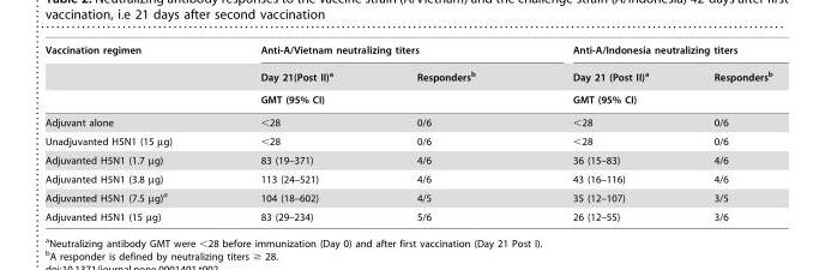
<table><thead><tr><td rowspan="3">Vaccination regimen</td><td colspan="2">Anti-A/Vietnam neutralizing titers</td><td colspan="2">Anti-A/Indonesia neutralizing titers</td></tr><tr><td rowspan="2">Day 21(Post II)<sup>a</sup> GMT (95% CI)</td><td rowspan="2">Responders<sup>b</sup></td><td rowspan="2">Day 21 (Post II)<sup>a</sup> GMT (95% CI)</td><td rowspan="2">Responders<sup>b</sup></td></tr><tr></tr></thead><tbody><tr><td>Adjuvant alone</td><td>&lt;28</td><td>0/6</td><td>&lt;28</td><td>0/6</td></tr><tr><td>Unadjuvanted H5N1 (15 µg)</td><td>&lt;28</td><td>0/6</td><td>&lt;28</td><td>0/6</td></tr><tr><td>Adjuvanted H5N1 (1.7 µg)</td><td>83 (19–371)</td><td>4/6</td><td>36 (15–83)</td><td>4/6</td></tr><tr><td>Adjuvanted H5N1 (3.8 µg)</td><td>113 (24–521)</td><td>4/6</td><td>43 (16–116)</td><td>4/6</td></tr><tr><td>Adjuvanted H5N1 (7.5 µg)<sup>a</sup></td><td>104 (18–602)</td><td>4/5</td><td>35 (12–107)</td><td>3/5</td></tr><tr><td>Adjuvanted H5N1 (15 µg)</td><td>83 (29–234)</td><td>5/6</td><td>26 (12–55)</td><td>3/6</td></tr></tbody></table>